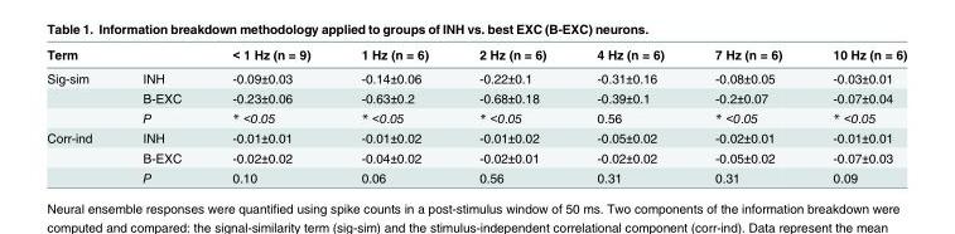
<table><thead><tr><td>Term</td><td></td><td>&lt; 1 Hz (n = 9)</td><td>1 Hz (n = 6)</td><td>2 Hz (n = 6)</td><td>4 Hz (n = 6)</td><td>7 Hz (n = 6)</td><td>10 Hz (n = 6)</td></tr></thead><tbody><tr><td rowspan="3">Sig-sim</td><td>INH</td><td>-0.09±0.03</td><td>-0.14±0.06</td><td>-0.22±0.1</td><td>-0.31±0.16</td><td>-0.08±0.05</td><td>-0.03±0.01</td></tr><tr><td>B-EXC</td><td>-0.23±0.06</td><td>-0.63±0.2</td><td>-0.68±0.18</td><td>-0.39±0.1</td><td>-0.2±0.07</td><td>-0.07±0.04</td></tr><tr><td>P</td><td>* &lt;0.05</td><td>* &lt;0.05</td><td>* &lt;0.05</td><td>0.56</td><td>* &lt;0.05</td><td>* &lt;0.05</td></tr><tr><td rowspan="3">Corr-ind</td><td>INH</td><td>-0.01±0.01</td><td>-0.01±0.02</td><td>-0.01±0.02</td><td>-0.05±0.02</td><td>-0.02±0.01</td><td>-0.01±0.01</td></tr><tr><td>B-EXC</td><td>-0.02±0.02</td><td>-0.04±0.02</td><td>-0.02±0.01</td><td>-0.02±0.02</td><td>-0.05±0.02</td><td>-0.07±0.03</td></tr><tr><td>P</td><td>0.10</td><td>0.06</td><td>0.56</td><td>0.31</td><td>0.31</td><td>0.09</td></tr></tbody></table>